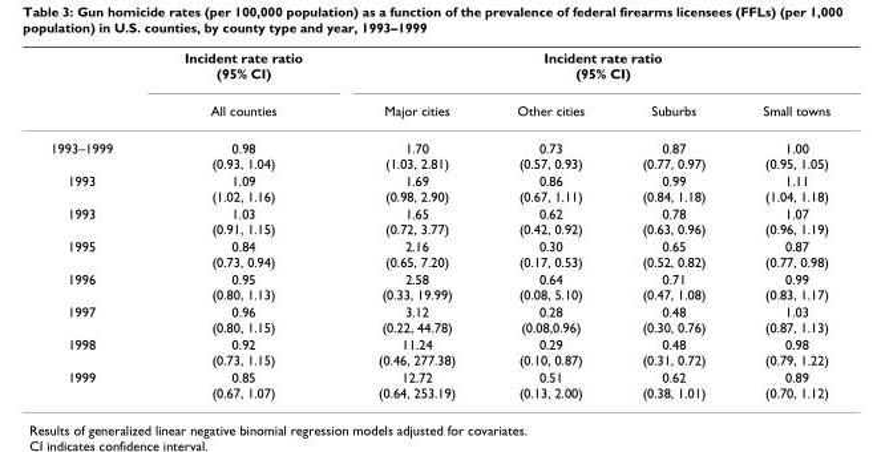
<table><thead><tr><td rowspan="2"></td><td rowspan="2">Incident rate ratio (95% CI) All counties</td><td colspan="4">Incident rate ratio (95% CI)</td></tr><tr><td>Major cities</td><td>Other cities</td><td>Suburbs</td><td>Small towns</td></tr></thead><tbody><tr><td>1993–1999</td><td>0.98 (0.93, 1.04)</td><td>1.70 (1.03, 2.81)</td><td>0.73 (0.57, 0.93)</td><td>0.87 (0.77, 0.97)</td><td>1.00 (0.95, 1.05)</td></tr><tr><td>1993</td><td>1.09 (1.02, 1.16)</td><td>1.69 (0.98, 2.90)</td><td>0.86 (0.67, 1.11)</td><td>0.99 (0.84, 1.18)</td><td>1.11 (1.04, 1.18)</td></tr><tr><td>1993</td><td>1.03 (0.91, 1.15)</td><td>1.65 (0.72, 3.77)</td><td>0.62 (0.42, 0.92)</td><td>0.78 (0.63, 0.96)</td><td>1.07 (0.96, 1.19)</td></tr><tr><td>1995</td><td>0.84 (0.73, 0.94)</td><td>2.16 (0.65, 7.20)</td><td>0.30 (0.17, 0.53)</td><td>0.65 (0.52, 0.82)</td><td>0.87 (0.77, 0.98)</td></tr><tr><td>1996</td><td>0.95 (0.80, 1.13)</td><td>2.58 (0.33, 19.99)</td><td>0.64 (0.08, 5.10)</td><td>0.71 (0.47, 1.08)</td><td>0.99 (0.83, 1.17)</td></tr><tr><td>1997</td><td>0.96 (0.80, 1.15)</td><td>3.12 (0.22, 44.78)</td><td>0.28 (0.08,0.96)</td><td>0.48 (0.30, 0.76)</td><td>1.03 (0.87, 1.13)</td></tr><tr><td>1998</td><td>0.92 (0.73, 1.15)</td><td>11.24 (0.46, 277.38)</td><td>0.29 (0.10, 0.87)</td><td>0.48 (0.31, 0.72)</td><td>0.98 (0.79, 1.22)</td></tr><tr><td>1999</td><td>0.85 (0.67, 1.07)</td><td>12.72 (0.64, 253.19)</td><td>0.51 (0.13, 2.00)</td><td>0.62 (0.38, 1.01)</td><td>0.89 (0.70, 1.12)</td></tr></tbody></table>